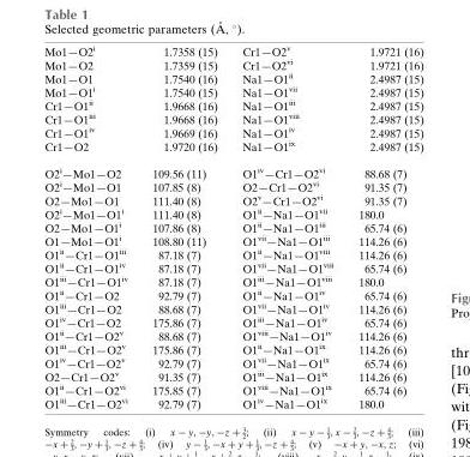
<table><tbody><tr><td>Mo1—O2<sup>i</sup></td><td>1.7358 (15)</td><td>Cr1—O2<sup>v</sup></td><td>1.9721 (16)</td></tr><tr><td>Mo1—O2</td><td>1.7359 (15)</td><td>Cr1—O2<sup>vi</sup></td><td>1.9721 (16)</td></tr><tr><td>Mo1—O1</td><td>1.7540 (16)</td><td>Na1—O1<sup>ii</sup></td><td>2.4987 (15)</td></tr><tr><td>Mo1—O1<sup>i</sup></td><td>1.7540 (15)</td><td>Na1—O1<sup>vii</sup></td><td>2.4987 (15)</td></tr><tr><td>Cr1—O1<sup>ii</sup></td><td>1.9668 (16)</td><td>Na1—O1<sup>iii</sup></td><td>2.4987 (15)</td></tr><tr><td>Cr1—O1<sup>iii</sup></td><td>1.9668 (16)</td><td>Na1—O1<sup>viii</sup></td><td>2.4987 (15)</td></tr><tr><td>Cr1—O1<sup>iv</sup></td><td>1.9669 (16)</td><td>Na1—O1<sup>iv</sup></td><td>2.4987 (15)</td></tr><tr><td>Cr1—O2</td><td>1.9720 (16)</td><td>Na1—O1<sup>ix</sup></td><td>2.4987 (15)</td></tr><tr><td>O2<sup>i</sup>—Mo1—O2</td><td>109.56 (11)</td><td>O1<sup>iv</sup>—Cr1—O2<sup>vi</sup></td><td>88.68 (7)</td></tr><tr><td>O2<sup>i</sup>—Mo1—O1</td><td>107.85 (8)</td><td>O2—Cr1—O2<sup>vi</sup></td><td>91.35 (7)</td></tr><tr><td>O2—Mo1—O1</td><td>111.40 (8)</td><td>O2<sup>v</sup>—Cr1—O2<sup>vi</sup></td><td>91.35 (7)</td></tr><tr><td>O2<sup>i</sup>—Mo1—O1<sup>i</sup></td><td>111.40 (8)</td><td>O1<sup>ii</sup>—Na1—O1<sup>vii</sup></td><td>180.0</td></tr><tr><td>O2—Mo1—O1<sup>i</sup></td><td>107.86 (8)</td><td>O1<sup>ii</sup>—Na1—O1<sup>iii</sup></td><td>65.74 (6)</td></tr><tr><td>O1—Mo1—O1<sup>i</sup></td><td>108.80 (11)</td><td>O1<sup>vii</sup>—Na1—O1<sup>iii</sup></td><td>114.26 (6)</td></tr><tr><td>O1<sup>ii</sup>—Cr1—O1<sup>iii</sup></td><td>87.18 (7)</td><td>O1<sup>ii</sup>—Na1—O1<sup>viii</sup></td><td>114.26 (6)</td></tr><tr><td>O1<sup>ii</sup>—Cr1—O1<sup>iv</sup></td><td>87.18 (7)</td><td>O1<sup>vii</sup>—Na1—O1<sup>viii</sup></td><td>65.74 (6)</td></tr><tr><td>O1<sup>iii</sup>—Cr1—O1<sup>iv</sup></td><td>87.18 (7)</td><td>O1<sup>iii</sup>—Na1—O1<sup>viii</sup></td><td>180.0</td></tr><tr><td>O1<sup>ii</sup>—Cr1—O2</td><td>92.79 (7)</td><td>O1<sup>ii</sup>—Na1—O1<sup>iv</sup></td><td>65.74 (6)</td></tr><tr><td>O1<sup>iii</sup>—Cr1—O2</td><td>88.68 (7)</td><td>O1<sup>vii</sup>—Na1—O1<sup>iv</sup></td><td>114.26 (6)</td></tr><tr><td>O1<sup>iv</sup>—Cr1—O2</td><td>175.86 (7)</td><td>O1<sup>iii</sup>—Na1—O1<sup>iv</sup></td><td>65.74 (6)</td></tr><tr><td>O1<sup>ii</sup>—Cr1—O2<sup>v</sup></td><td>88.68 (7)</td><td>O1<sup>viii</sup>—Na1—O1<sup>iv</sup></td><td>114.26 (6)</td></tr><tr><td>O1<sup>iii</sup>—Cr1—O2<sup>v</sup></td><td>175.86 (7)</td><td>O1<sup>ii</sup>—Na1—O1<sup>ix</sup></td><td>114.26 (6)</td></tr><tr><td>O1<sup>iv</sup>—Cr1—O2<sup>v</sup></td><td>92.79 (7)</td><td>O1<sup>vii</sup>—Na1—O1<sup>ix</sup></td><td>65.74 (6)</td></tr><tr><td>O2—Cr1—O2<sup>v</sup></td><td>91.35 (7)</td><td>O1<sup>iii</sup>—Na1—O1<sup>ix</sup></td><td>114.26 (6)</td></tr><tr><td>O1<sup>ii</sup>—Cr1—O2<sup>vi</sup></td><td>175.85 (7)</td><td>O1<sup>viii</sup>—Na1—O1<sup>ix</sup></td><td>65.74 (6)</td></tr><tr><td>O1<sup>iii</sup>—Cr1—O2<sup>vi</sup></td><td>92.79 (7)</td><td>O1<sup>iv</sup>—Na1—O1<sup>ix</sup></td><td>180.0</td></tr></tbody></table>